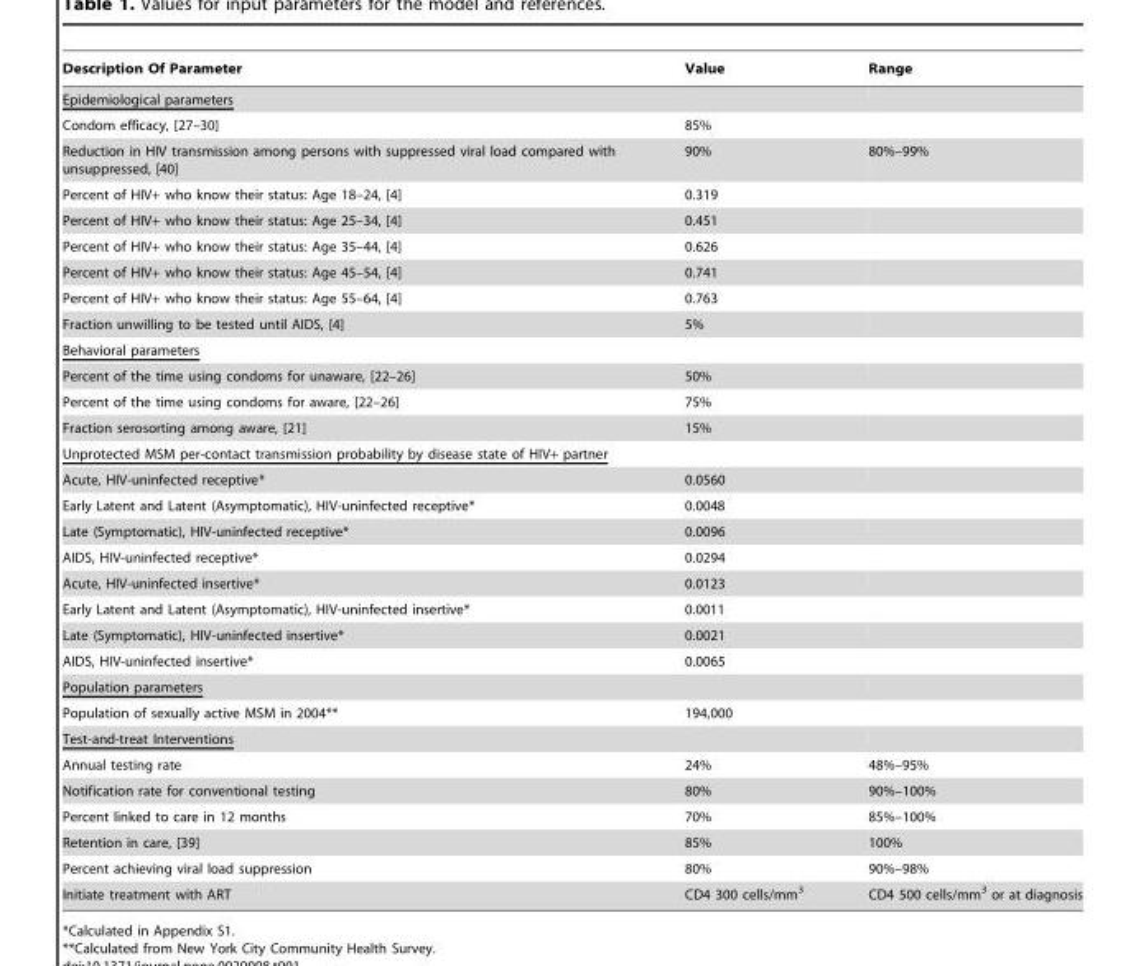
<table><thead><tr><td>Description Of Parameter</td><td>Value</td><td>Range</td></tr></thead><tbody><tr><td colspan="3">Epidemiological parameters</td></tr><tr><td>Condom efficacy, [27–30]</td><td>85%</td><td></td></tr><tr><td>Reduction in HIV transmission among persons with suppressed viral load compared with unsuppressed, [40]</td><td>90%</td><td>80%–99%</td></tr><tr><td>Percent of HIV+ who know their status: Age 18–24, [4]</td><td>0.319</td><td></td></tr><tr><td>Percent of HIV+ who know their status: Age 25–34, [4]</td><td>0.451</td><td></td></tr><tr><td>Percent of HIV+ who know their status: Age 35–44, [4]</td><td>0.626</td><td></td></tr><tr><td>Percent of HIV+ who know their status: Age 45–54, [4]</td><td>0.741</td><td></td></tr><tr><td>Percent of HIV+ who know their status: Age 55–64, [4]</td><td>0.763</td><td></td></tr><tr><td>Fraction unwilling to be tested until AIDS, [4]</td><td>5%</td><td></td></tr><tr><td colspan="3">Behavioral parameters</td></tr><tr><td>Percent of the time using condoms for unaware, [22–26]</td><td>50%</td><td></td></tr><tr><td>Percent of the time using condoms for aware, [22–26]</td><td>75%</td><td></td></tr><tr><td>Fraction serosorting among aware, [21]</td><td>15%</td><td></td></tr><tr><td colspan="3">Unprotected MSM per-contact transmission probability by disease state of HIV+ partner</td></tr><tr><td>Acute, HIV-uninfected receptive*</td><td>0.0560</td><td></td></tr><tr><td>Early Latent and Latent (Asymptomatic), HIV-uninfected receptive*</td><td>0.0048</td><td></td></tr><tr><td>Late (Symptomatic), HIV-uninfected receptive*</td><td>0.0096</td><td></td></tr><tr><td>AIDS, HIV-uninfected receptive*</td><td>0.0294</td><td></td></tr><tr><td>Acute, HIV-uninfected insertive*</td><td>0.0123</td><td></td></tr><tr><td>Early Latent and Latent (Asymptomatic), HIV-uninfected insertive*</td><td>0.0011</td><td></td></tr><tr><td>Late (Symptomatic), HIV-uninfected insertive*</td><td>0.0021</td><td></td></tr><tr><td>AIDS, HIV-uninfected insertive*</td><td>0.0065</td><td></td></tr><tr><td colspan="3">Population parameters</td></tr><tr><td>Population of sexually active MSM in 2004**</td><td>194,000</td><td></td></tr><tr><td colspan="3">Test-and-treat Interventions</td></tr><tr><td>Annual testing rate</td><td>24%</td><td>48%–95%</td></tr><tr><td>Notification rate for conventional testing</td><td>80%</td><td>90%–100%</td></tr><tr><td>Percent linked to care in 12 months</td><td>70%</td><td>85%–100%</td></tr><tr><td>Retention in care, [39]</td><td>85%</td><td>100%</td></tr><tr><td>Percent achieving viral load suppression</td><td>80%</td><td>90%–98%</td></tr><tr><td>Initiate treatment with ART</td><td>CD4 300 cells/mm<sup>3</sup></td><td>CD4 500 cells/mm<sup>3</sup> or at diagnosis</td></tr></tbody></table>